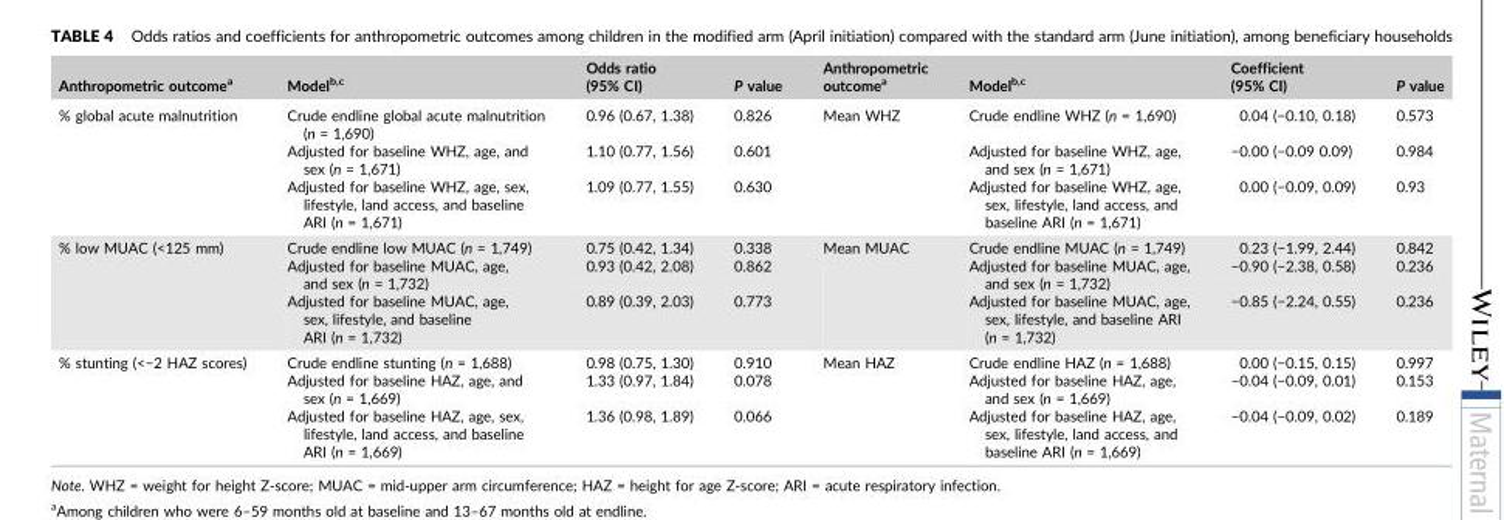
<table><thead><tr><td>Anthropometric outcome<sup>a</sup></td><td>Model<sup>b,</sup>c</td><td>Odds ratio (95% CI)</td><td>P value</td><td>Anthropometric outcome<sup>a</sup></td><td>Model<sup>b,</sup>c</td><td>Coefficient (95% CI)</td><td>P value</td></tr></thead><tbody><tr><td rowspan="3">% global acute malnutrition</td><td>Crude endline global acute malnutrition (n = 1,690)</td><td>0.96 (0.67, 1.38)</td><td>0.826</td><td rowspan="3">Mean WHZ</td><td>Crude endline WHZ (n = 1,690)</td><td>0.04 (−0.10, 0.18)</td><td>0.573</td></tr><tr><td>Adjusted for baseline WHZ, age, and sex (n = 1,671)</td><td>1.10 (0.77, 1.56)</td><td>0.601</td><td>Adjusted for baseline WHZ, age, and sex (n = 1,671)</td><td>−0.00 (−0.09 0.09)</td><td>0.984</td></tr><tr><td>Adjusted for baseline WHZ, age, sex, lifestyle, land access, and baseline ARI (n = 1,671)</td><td>1.09 (0.77, 1.55)</td><td>0.630</td><td>Adjusted for baseline WHZ, age, sex, lifestyle, land access, and baseline ARI (n = 1,671)</td><td>0.00 (−0.09, 0.09)</td><td>0.93</td></tr><tr><td rowspan="3">% low MUAC (&lt;125 mm)</td><td>Crude endline low MUAC (n = 1,749)</td><td>0.75 (0.42, 1.34)</td><td>0.338</td><td rowspan="3">Mean MUAC</td><td>Crude endline MUAC (n = 1,749)</td><td>0.23 (−1.99, 2.44)</td><td>0.842</td></tr><tr><td>Adjusted for baseline MUAC, age, and sex (n = 1,732)</td><td>0.93 (0.42, 2.08)</td><td>0.862</td><td>Adjusted for baseline MUAC, age, and sex (n = 1,732)</td><td>−0.90 (−2.38, 0.58)</td><td>0.236</td></tr><tr><td>Adjusted for baseline MUAC, age, sex, lifestyle, and baseline ARI (n = 1,732)</td><td>0.89 (0.39, 2.03)</td><td>0.773</td><td>Adjusted for baseline MUAC, age, sex, lifestyle, and baseline ARI (n = 1,732)</td><td>−0.85 (−2.24, 0.55)</td><td>0.236</td></tr><tr><td rowspan="3">% stunting (&lt;−2 HAZ scores)</td><td>Crude endline stunting (n = 1,688)</td><td>0.98 (0.75, 1.30)</td><td>0.910</td><td rowspan="3">Mean HAZ</td><td>Crude endline HAZ (n = 1,688)</td><td>0.00 (−0.15, 0.15)</td><td>0.997</td></tr><tr><td>Adjusted for baseline HAZ, age, and sex (n = 1,669)</td><td>1.33 (0.97, 1.84)</td><td>0.078</td><td>Adjusted for baseline HAZ, age, and sex (n = 1,669)</td><td>−0.04 (−0.09, 0.01)</td><td>0.153</td></tr><tr><td>Adjusted for baseline HAZ, age, sex, lifestyle, land access, and baseline ARI (n = 1,669)</td><td>1.36 (0.98, 1.89)</td><td>0.066</td><td>Adjusted for baseline HAZ, age, sex, lifestyle, land access, and baseline ARI (n = 1,669)</td><td>−0.04 (−0.09, 0.02)</td><td>0.189</td></tr></tbody></table>